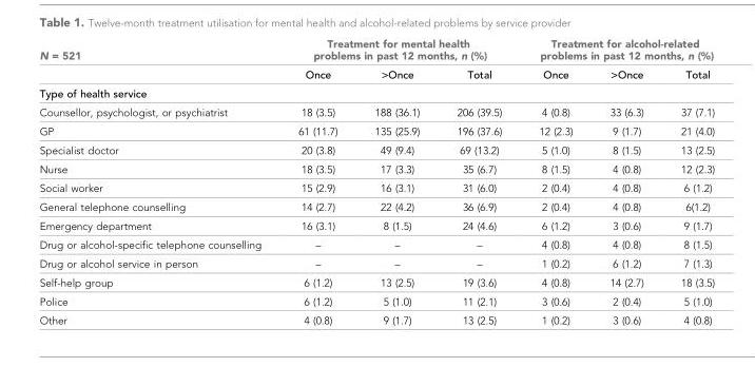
<table><thead><tr><td rowspan="2">N = 521</td><td colspan="3">Treatment for mental health problems in past 12 months, n (%)</td><td colspan="3">Treatment for alcohol-related problems in past 12 months, n (%)</td></tr><tr><td>Once</td><td>&gt;Once</td><td>Total</td><td>Once</td><td>&gt;Once</td><td>Total</td></tr></thead><tbody><tr><td colspan="7">Type of health service</td></tr><tr><td>Counsellor, psychologist, or psychiatrist</td><td>18 (3.5)</td><td>188 (36.1)</td><td>206 (39.5)</td><td>4 (0.8)</td><td>33 (6.3)</td><td>37 (7.1)</td></tr><tr><td>GP</td><td>61 (11.7)</td><td>135 (25.9)</td><td>196 (37.6)</td><td>12 (2.3)</td><td>9 (1.7)</td><td>21 (4.0)</td></tr><tr><td>Specialist doctor</td><td>20 (3.8)</td><td>49 (9.4)</td><td>69 (13.2)</td><td>5 (1.0)</td><td>8 (1.5)</td><td>13 (2.5)</td></tr><tr><td>Nurse</td><td>18 (3.5)</td><td>17 (3.3)</td><td>35 (6.7)</td><td>8 (1.5)</td><td>4 (0.8)</td><td>12 (2.3)</td></tr><tr><td>Social worker</td><td>15 (2.9)</td><td>16 (3.1)</td><td>31 (6.0)</td><td>2 (0.4)</td><td>4 (0.8)</td><td>6 (1.2)</td></tr><tr><td>General telephone counselling</td><td>14 (2.7)</td><td>22 (4.2)</td><td>36 (6.9)</td><td>2 (0.4)</td><td>4 (0.8)</td><td>6(1.2)</td></tr><tr><td>Emergency department</td><td>16 (3.1)</td><td>8 (1.5)</td><td>24 (4.6)</td><td>6 (1.2)</td><td>3 (0.6)</td><td>9 (1.7)</td></tr><tr><td>Drug or alcohol-specific telephone counselling</td><td>–</td><td>–</td><td>–</td><td>4 (0.8)</td><td>4 (0.8)</td><td>8 (1.5)</td></tr><tr><td>Drug or alcohol service in person</td><td>–</td><td>–</td><td>–</td><td>1 (0.2)</td><td>6 (1.2)</td><td>7 (1.3)</td></tr><tr><td>Self-help group</td><td>6 (1.2)</td><td>13 (2.5)</td><td>19 (3.6)</td><td>4 (0.8)</td><td>14 (2.7)</td><td>18 (3.5)</td></tr><tr><td>Police</td><td>6 (1.2)</td><td>5 (1.0)</td><td>11 (2.1)</td><td>3 (0.6)</td><td>2 (0.4)</td><td>5 (1.0)</td></tr><tr><td>Other</td><td>4 (0.8)</td><td>9 (1.7)</td><td>13 (2.5)</td><td>1 (0.2)</td><td>3 (0.6)</td><td>4 (0.8)</td></tr></tbody></table>